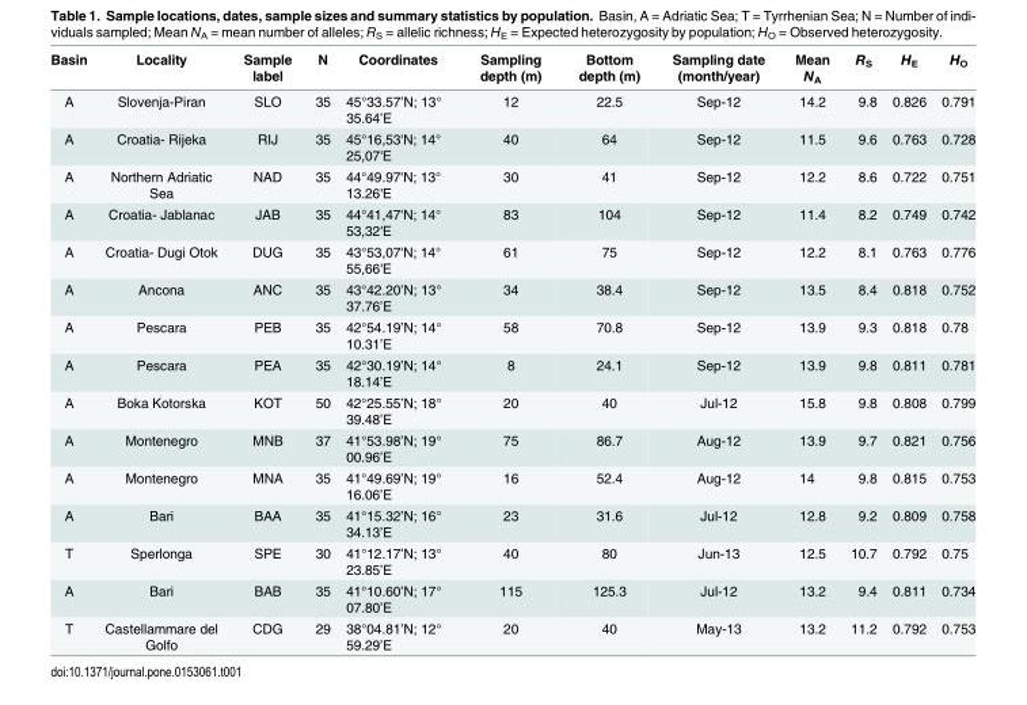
<table><thead><tr><td>Basin</td><td>Locality</td><td>Sample label</td><td>N</td><td>Coordinates</td><td>Sampling depth (m)</td><td>Bottom depth (m)</td><td>Sampling date (month/year)</td><td>Mean N<sub>A</sub></td><td>R<sub>S</sub></td><td>H<sub>E</sub></td><td>H<sub>O</sub></td></tr></thead><tbody><tr><td>A</td><td>Slovenja-Piran</td><td>SLO</td><td>35</td><td>45°33.57’N; 13° 35.64’E</td><td>12</td><td>22.5</td><td>Sep-12</td><td>14.2</td><td>9.8</td><td>0.826</td><td>0.791</td></tr><tr><td>A</td><td>Croatia- Rijeka</td><td>RIJ</td><td>35</td><td>45°16,53&#x27;N; 14° 25,07&#x27;E</td><td>40</td><td>64</td><td>Sep-12</td><td>11.5</td><td>9.6</td><td>0.763</td><td>0.728</td></tr><tr><td>A</td><td>Northern Adriatic Sea</td><td>NAD</td><td>35</td><td>44°49.97&#x27;N; 13° 13.26&#x27;E</td><td>30</td><td>41</td><td>Sep-12</td><td>12.2</td><td>8.6</td><td>0.722</td><td>0.751</td></tr><tr><td>A</td><td>Croatia- Jablanac</td><td>JAB</td><td>35</td><td>44°41,47&#x27;N; 14° 53,32&#x27;E</td><td>83</td><td>104</td><td>Sep-12</td><td>11.4</td><td>8.2</td><td>0.749</td><td>0.742</td></tr><tr><td>A</td><td>Croatia- Dugi Otok</td><td>DUG</td><td>35</td><td>43°53,07&#x27;N; 14° 55,66&#x27;E</td><td>61</td><td>75</td><td>Sep-12</td><td>12.2</td><td>8.1</td><td>0.763</td><td>0.776</td></tr><tr><td>A</td><td>Ancona</td><td>ANC</td><td>35</td><td>43°42.20’N; 13° 37.76’E</td><td>34</td><td>38.4</td><td>Sep-12</td><td>13.5</td><td>8.4</td><td>0.818</td><td>0.752</td></tr><tr><td>A</td><td>Pescara</td><td>PEB</td><td>35</td><td>42°54.19’N; 14° 10.31’E</td><td>58</td><td>70.8</td><td>Sep-12</td><td>13.9</td><td>9.3</td><td>0.818</td><td>0.78</td></tr><tr><td>A</td><td>Pescara</td><td>PEA</td><td>35</td><td>42°30.19’N; 14° 18.14’E</td><td>8</td><td>24.1</td><td>Sep-12</td><td>13.9</td><td>9.8</td><td>0.811</td><td>0.781</td></tr><tr><td>A</td><td>Boka Kotorska</td><td>KOT</td><td>50</td><td>42°25.55’N; 18° 39.48’E</td><td>20</td><td>40</td><td>Jul-12</td><td>15.8</td><td>9.8</td><td>0.808</td><td>0.799</td></tr><tr><td>A</td><td>Montenegro</td><td>MNB</td><td>37</td><td>41°53.98’N; 19° 00.96’E</td><td>75</td><td>86.7</td><td>Aug-12</td><td>13.9</td><td>9.7</td><td>0.821</td><td>0.756</td></tr><tr><td>A</td><td>Montenegro</td><td>MNA</td><td>35</td><td>41°49.69’N; 19° 16.06’E</td><td>16</td><td>52.4</td><td>Aug-12</td><td>14</td><td>9.8</td><td>0.815</td><td>0.753</td></tr><tr><td>A</td><td>Bari</td><td>BAA</td><td>35</td><td>41°15.32’N; 16° 34.13’E</td><td>23</td><td>31.6</td><td>Jul-12</td><td>12.8</td><td>9.2</td><td>0.809</td><td>0.758</td></tr><tr><td>T</td><td>Sperlonga</td><td>SPE</td><td>30</td><td>41°12.17’N; 13° 23.85’E</td><td>40</td><td>80</td><td>Jun-13</td><td>12.5</td><td>10.7</td><td>0.792</td><td>0.75</td></tr><tr><td>A</td><td>Bari</td><td>BAB</td><td>35</td><td>41°10.60’N; 17° 07.80’E</td><td>115</td><td>125.3</td><td>Jul-12</td><td>13.2</td><td>9.4</td><td>0.811</td><td>0.734</td></tr><tr><td>T</td><td>Castellammare del Golfo</td><td>CDG</td><td>29</td><td>38°04.81’N; 12° 59.29’E</td><td>20</td><td>40</td><td>May-13</td><td>13.2</td><td>11.2</td><td>0.792</td><td>0.753</td></tr></tbody></table>